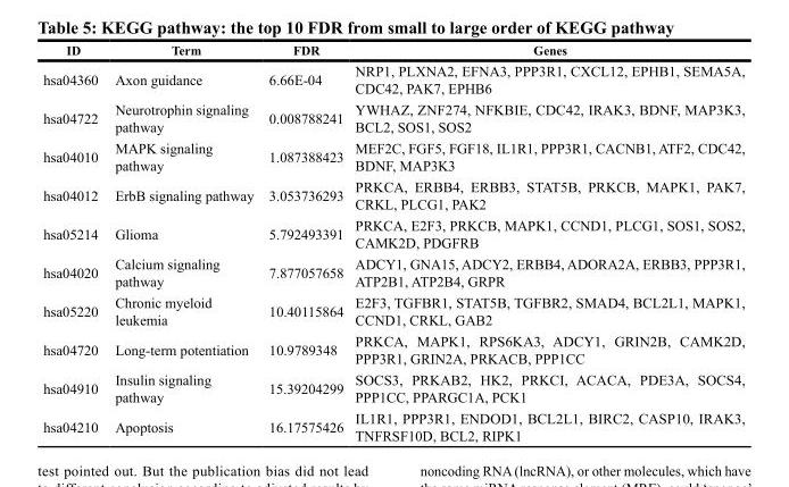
<table><thead><tr><td>ID</td><td>Term</td><td>FDR</td><td>Genes</td></tr></thead><tbody><tr><td>hsa04360</td><td>Axon guidance</td><td>6.66E-04</td><td>NRP1, PLXNA2, EFNA3, PPP3R1, CXCL12, EPHB1, SEMA5A, CDC42, PAK7, EPHB6</td></tr><tr><td>hsa04722</td><td>Neurotrophin signaling pathway</td><td>0.008788241</td><td>YWHAZ, ZNF274, NFKBIE, CDC42, IRAK3, BDNF, MAP3K3, BCL2, SOS1, SOS2</td></tr><tr><td>hsa04010</td><td>MAPK signaling pathway</td><td>1.087388423</td><td>MEF2C, FGF5, FGF18, IL1R1, PPP3R1, CACNB1, ATF2, CDC42, BDNF, MAP3K3</td></tr><tr><td>hsa04012</td><td>ErbB signaling pathway</td><td>3.053736293</td><td>PRKCA, ERBB4, ERBB3, STAT5B, PRKCB, MAPK1, PAK7, CRKL, PLCG1, PAK2</td></tr><tr><td>hsa05214</td><td>Glioma</td><td>5.792493391</td><td>PRKCA, E2F3, PRKCB, MAPK1, CCND1, PLCG1, SOS1, SOS2, CAMK2D, PDGFRB</td></tr><tr><td>hsa04020</td><td>Calcium signaling pathway</td><td>7.877057658</td><td>ADCY1, GNA15, ADCY2, ERBB4, ADORA2A, ERBB3, PPP3R1, ATP2B1, ATP2B4, GRPR</td></tr><tr><td>hsa05220</td><td>Chronic myeloid leukemia</td><td>10.40115864</td><td>E2F3, TGFBR1, STAT5B, TGFBR2, SMAD4, BCL2L1, MAPK1, CCND1, CRKL, GAB2</td></tr><tr><td>hsa04720</td><td>Long-term potentiation</td><td>10.9789348</td><td>PRKCA, MAPK1, RPS6KA3, ADCY1, GRIN2B, CAMK2D, PPP3R1, GRIN2A, PRKACB, PPP1CC</td></tr><tr><td>hsa04910</td><td>Insulin signaling pathway</td><td>15.39204299</td><td>SOCS3, PRKAB2, HK2, PRKCI, ACACA, PDE3A, SOCS4, PPP1CC, PPARGC1A, PCK1</td></tr><tr><td>hsa04210</td><td>Apoptosis</td><td>16.17575426</td><td>IL1R1, PPP3R1, ENDOD1, BCL2L1, BIRC2, CASP10, IRAK3, TNFRSF10D, BCL2, RIPK1</td></tr></tbody></table>